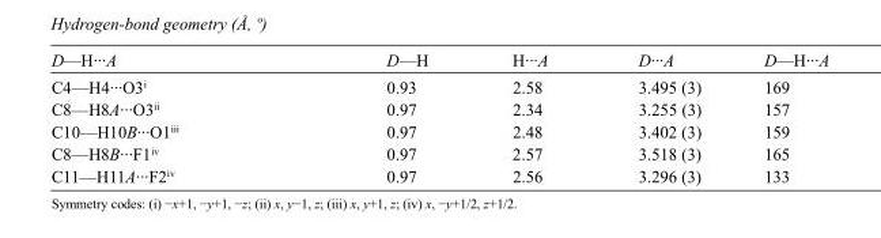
<table><tbody><tr><td>D—H···A</td><td>D—H</td><td>H···A</td><td>D···A</td><td>D—H···A</td></tr><tr><td>C4—H4···O3<sup>i</sup></td><td>0.93</td><td>2.58</td><td>3.495 (3)</td><td>169</td></tr><tr><td>C8—H8A···O3<sup>ii</sup></td><td>0.97</td><td>2.34</td><td>3.255 (3)</td><td>157</td></tr><tr><td>C10—H10B···O1<sup>iii</sup></td><td>0.97</td><td>2.48</td><td>3.402 (3)</td><td>159</td></tr><tr><td>C8—H8B···F1<sup>iv</sup></td><td>0.97</td><td>2.57</td><td>3.518 (3)</td><td>165</td></tr><tr><td>C11—H11A···F2<sup>iv</sup></td><td>0.97</td><td>2.56</td><td>3.296 (3)</td><td>133</td></tr></tbody></table>